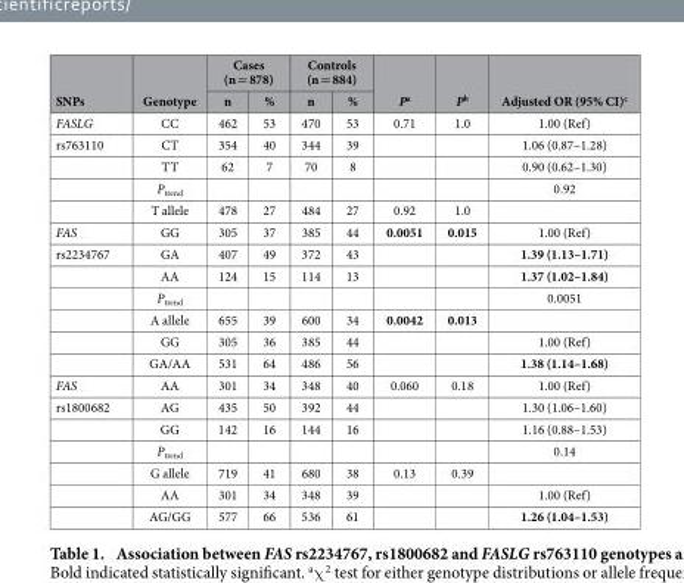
<table><thead><tr><td rowspan="2">SNPs</td><td rowspan="2">Genotype</td><td colspan="2">Cases (n = 878)</td><td colspan="2">Controls (n = 884)</td><td rowspan="2">P<sup>a</sup></td><td rowspan="2">P<sup>b</sup></td><td rowspan="2">Adjusted OR (95% CI)<sup>c</sup></td></tr><tr><td>n</td><td>%</td><td>n</td><td>%</td></tr></thead><tbody><tr><td>FASLG</td><td>CC</td><td>462</td><td>53</td><td>470</td><td>53</td><td>0.71</td><td>1.0</td><td>1.00 (Ref)</td></tr><tr><td rowspan="4">rs763110</td><td>CT</td><td>354</td><td>40</td><td>344</td><td>39</td><td></td><td></td><td>1.06 (0.87–1.28)</td></tr><tr><td>TT</td><td>62</td><td>7</td><td>70</td><td>8</td><td></td><td></td><td>0.90 (0.62–1.30)</td></tr><tr><td>P<sub>trend</sub></td><td></td><td></td><td></td><td></td><td></td><td></td><td>0.92</td></tr><tr><td>T allele</td><td>478</td><td>27</td><td>484</td><td>27</td><td>0.92</td><td>1.0</td><td></td></tr><tr><td>FAS</td><td>GG</td><td>305</td><td>37</td><td>385</td><td>44</td><td>0.0051</td><td>0.015</td><td>1.00 (Ref)</td></tr><tr><td rowspan="6">rs2234767</td><td>GA</td><td>407</td><td>49</td><td>372</td><td>43</td><td></td><td></td><td>1.39 (1.13–1.71)</td></tr><tr><td>AA</td><td>124</td><td>15</td><td>114</td><td>13</td><td></td><td></td><td>1.37 (1.02–1.84)</td></tr><tr><td>P<sub>trend</sub></td><td></td><td></td><td></td><td></td><td></td><td></td><td>0.0051</td></tr><tr><td>A allele</td><td>655</td><td>39</td><td>600</td><td>34</td><td>0.0042</td><td>0.013</td><td></td></tr><tr><td>GG</td><td>305</td><td>36</td><td>385</td><td>44</td><td></td><td></td><td>1.00 (Ref)</td></tr><tr><td>GA/AA</td><td>531</td><td>64</td><td>486</td><td>56</td><td></td><td></td><td>1.38 (1.14–1.68)</td></tr><tr><td>FAS</td><td>AA</td><td>301</td><td>34</td><td>348</td><td>40</td><td>0.060</td><td>0.18</td><td>1.00 (Ref)</td></tr><tr><td rowspan="6">rs1800682</td><td>AG</td><td>435</td><td>50</td><td>392</td><td>44</td><td></td><td></td><td>1.30 (1.06–1.60)</td></tr><tr><td>GG</td><td>142</td><td>16</td><td>144</td><td>16</td><td></td><td></td><td>1.16 (0.88–1.53)</td></tr><tr><td>P<sub>trend</sub></td><td></td><td></td><td></td><td></td><td></td><td></td><td>0.14</td></tr><tr><td>G allele</td><td>719</td><td>41</td><td>680</td><td>38</td><td>0.13</td><td>0.39</td><td></td></tr><tr><td>AA</td><td>301</td><td>34</td><td>348</td><td>39</td><td></td><td></td><td>1.00 (Ref)</td></tr><tr><td>AG/GG</td><td>577</td><td>66</td><td>536</td><td>61</td><td></td><td></td><td>1.26 (1.04–1.53)</td></tr></tbody></table>